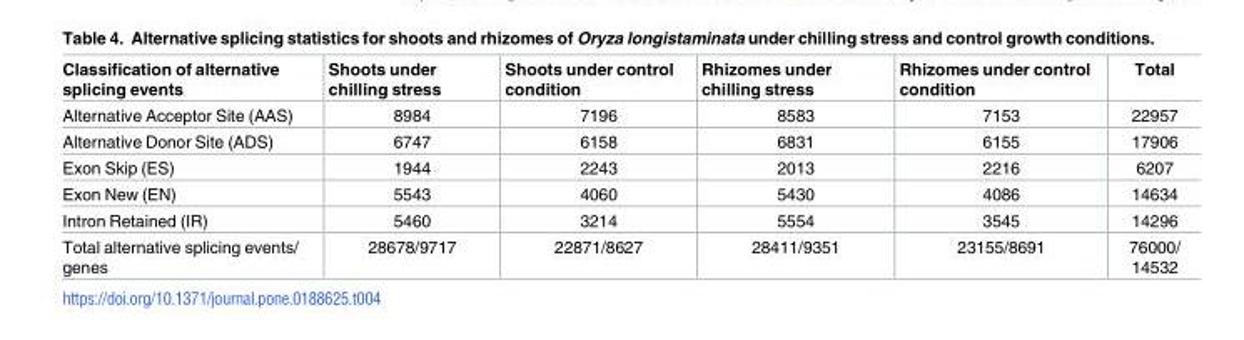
<table><thead><tr><td>Classification of alternative splicing events</td><td>Shoots under chilling stress</td><td>Shoots under control condition</td><td>Rhizomes under chilling stress</td><td>Rhizomes under control condition</td><td>Total</td></tr></thead><tbody><tr><td>Alternative Acceptor Site (AAS)</td><td>8984</td><td>7196</td><td>8583</td><td>7153</td><td>22957</td></tr><tr><td>Alternative Donor Site (ADS)</td><td>6747</td><td>6158</td><td>6831</td><td>6155</td><td>17906</td></tr><tr><td>Exon Skip (ES)</td><td>1944</td><td>2243</td><td>2013</td><td>2216</td><td>6207</td></tr><tr><td>Exon New (EN)</td><td>5543</td><td>4060</td><td>5430</td><td>4086</td><td>14634</td></tr><tr><td>Intron Retained (IR)</td><td>5460</td><td>3214</td><td>5554</td><td>3545</td><td>14296</td></tr><tr><td>Total alternative splicing events/ genes</td><td>28678/9717</td><td>22871/8627</td><td>28411/9351</td><td>23155/8691</td><td>76000/ 14532</td></tr></tbody></table>